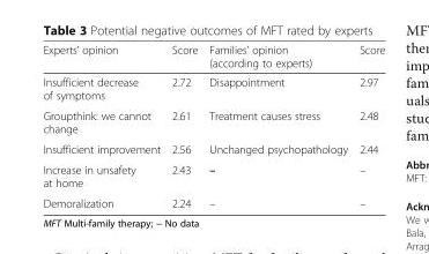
<table><thead><tr><td>Experts’ opinion</td><td>Score</td><td>Families’ opinion (according to experts)</td><td>Score</td></tr></thead><tbody><tr><td>Insufficient decrease of symptoms</td><td>2.72</td><td>Disappointment</td><td>2.97</td></tr><tr><td>Groupthink: we cannot change</td><td>2.61</td><td>Treatment causes stress</td><td>2.48</td></tr><tr><td>Insufficient improvement</td><td>2.56</td><td>Unchanged psychopathology</td><td>2.44</td></tr><tr><td>Increase in unsafety at home</td><td>2.43</td><td>–</td><td>–</td></tr><tr><td>Demoralization</td><td>2.24</td><td>–</td><td>–</td></tr></tbody></table>